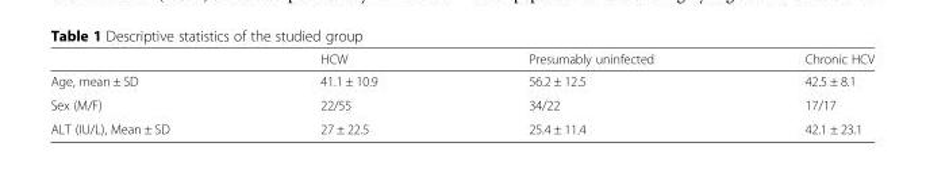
<table><thead><tr><td></td><td>HCW</td><td>Presumably uninfected</td><td>Chronic HCV</td></tr></thead><tbody><tr><td>Age, mean ± SD</td><td>41.1 ± 10.9</td><td>56.2 ± 12.5</td><td>42.5 ± 8.1</td></tr><tr><td>Sex (M/F)</td><td>22/55</td><td>34/22</td><td>17/17</td></tr><tr><td>ALT (IU/L), Mean ± SD</td><td>27 ± 22.5</td><td>25.4 ± 11.4</td><td>42.1 ± 23.1</td></tr></tbody></table>